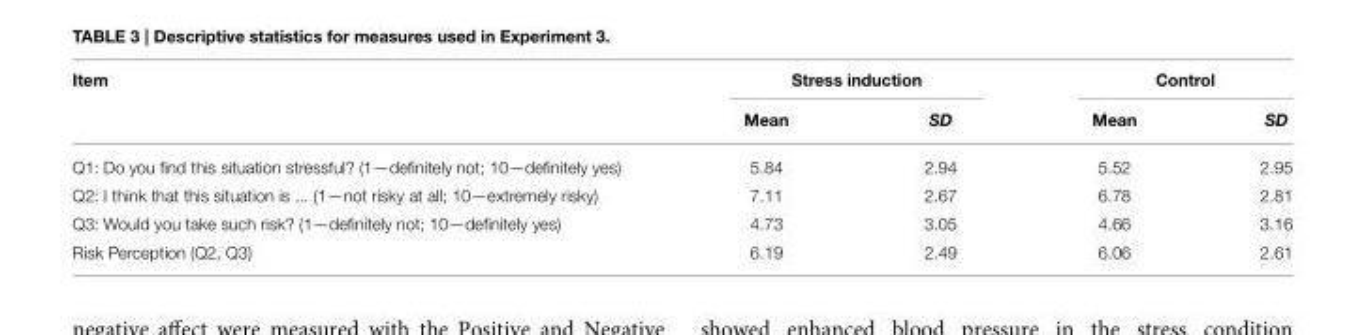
<table><thead><tr><td rowspan="2">Item</td><td colspan="2">Stress induction</td><td colspan="2">Control</td></tr><tr><td>Mean</td><td>SD</td><td>Mean</td><td>SD</td></tr></thead><tbody><tr><td>Q1: Do you find this situation stressful? (1—definitely not; 10—definitely yes)</td><td>5.84</td><td>2.94</td><td>5.52</td><td>2.95</td></tr><tr><td>Q2: I think that this situation is ... (1—not risky at all; 10—extremely risky)</td><td>7.11</td><td>2.67</td><td>6.78</td><td>2.81</td></tr><tr><td>Q3: Would you take such risk? (1—definitely not; 10—definitely yes)</td><td>4.73</td><td>3.05</td><td>4.66</td><td>3.16</td></tr><tr><td>Risk Perception (Q2, Q3)</td><td>6.19</td><td>2.49</td><td>6.06</td><td>2.61</td></tr></tbody></table>